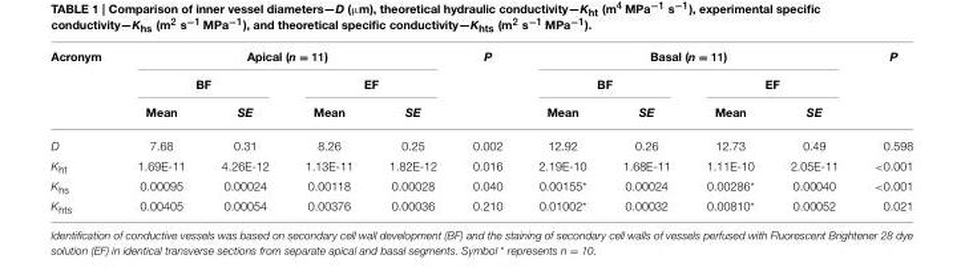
<table><thead><tr><td rowspan="3">Acronym</td><td colspan="4">Apical (n = 11)</td><td rowspan="3">P</td><td colspan="4">Basal (n = 11)</td><td rowspan="3">P</td></tr><tr><td colspan="2">BF</td><td colspan="2">EF</td><td colspan="2">BF</td><td colspan="2">EF</td></tr><tr><td>Mean</td><td>SE</td><td>Mean</td><td>SE</td><td>Mean</td><td>SE</td><td>Mean</td><td>SE</td></tr></thead><tbody><tr><td>D</td><td>7.68</td><td>0.31</td><td>8.26</td><td>0.25</td><td>0.002</td><td>12.92</td><td>0.26</td><td>12.73</td><td>0.49</td><td>0.598</td></tr><tr><td>K<sub>ht</sub></td><td>1.69E-11</td><td>4.26E-12</td><td>1.13E-11</td><td>1.82E-12</td><td>0.016</td><td>2.19E-10</td><td>1.68E-11</td><td>1.11E-10</td><td>2.05E-11</td><td>&lt;0.001</td></tr><tr><td>K<sub>hs</sub></td><td>0.00095</td><td>0.00024</td><td>0.00118</td><td>0.00028</td><td>0.040</td><td>0.00155*</td><td>0.00024</td><td>0.00286*</td><td>0.00040</td><td>&lt;0.001</td></tr><tr><td>K<sub>hts</sub></td><td>0.00405</td><td>0.00054</td><td>0.00376</td><td>0.00036</td><td>0.210</td><td>0.01002*</td><td>0.00032</td><td>0.00810*</td><td>0.00052</td><td>0.021</td></tr></tbody></table>